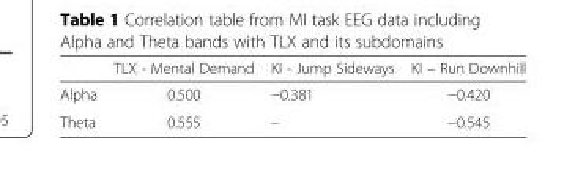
<table><thead><tr><td></td><td>TLX - Mental Demand</td><td>KI - Jump Sideways</td><td>KI – Run Downhill</td></tr></thead><tbody><tr><td>Alpha</td><td>0.500</td><td>−0.381</td><td>−0.420</td></tr><tr><td>Theta</td><td>0.555</td><td>–</td><td>−0.545</td></tr></tbody></table>